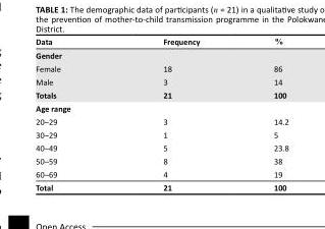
<table><thead><tr><td>Data</td><td>Frequency</td><td>%</td></tr></thead><tbody><tr><td colspan="3">Gender</td></tr><tr><td>Female</td><td>18</td><td>86</td></tr><tr><td>Male</td><td>3</td><td>14</td></tr><tr><td>Totals</td><td>21</td><td>100</td></tr><tr><td colspan="3">Age range</td></tr><tr><td>20–29</td><td>3</td><td>14.2</td></tr><tr><td>30–29</td><td>1</td><td>5</td></tr><tr><td>40–49</td><td>5</td><td>23.8</td></tr><tr><td>50–59</td><td>8</td><td>38</td></tr><tr><td>60–69</td><td>4</td><td>19</td></tr><tr><td>Total</td><td>21</td><td>100</td></tr></tbody></table>